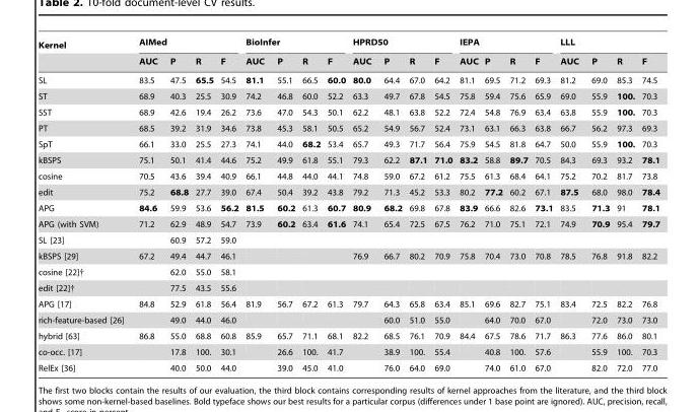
<table><thead><tr><td rowspan="2">Kernel</td><td colspan="4">AIMed</td><td colspan="4">BioInfer</td><td colspan="4">HPRD50</td><td colspan="4">IEPA</td><td colspan="4">LLL</td></tr><tr><td>AUC</td><td>P</td><td>R</td><td>F</td><td>AUC</td><td>P</td><td>R</td><td>F</td><td>AUC</td><td>P</td><td>R</td><td>F</td><td>AUC</td><td>P</td><td>R</td><td>F</td><td>AUC</td><td>P</td><td>R</td><td>F</td></tr></thead><tbody><tr><td>SL</td><td>83.5</td><td>47.5</td><td>65.5</td><td>54.5</td><td>81.1</td><td>55.1</td><td>66.5</td><td>60.0</td><td>80.0</td><td>64.4</td><td>67.0</td><td>64.2</td><td>81.1</td><td>69.5</td><td>71.2</td><td>69.3</td><td>81.2</td><td>69.0</td><td>85.3</td><td>74.5</td></tr><tr><td>ST</td><td>68.9</td><td>40.3</td><td>25.5</td><td>30.9</td><td>74.2</td><td>46.8</td><td>60.0</td><td>52.2</td><td>63.3</td><td>49.7</td><td>67.8</td><td>54.5</td><td>75.8</td><td>59.4</td><td>75.6</td><td>65.9</td><td>69.0</td><td>55.9</td><td>100.</td><td>70.3</td></tr><tr><td>SST</td><td>68.9</td><td>42.6</td><td>19.4</td><td>26.2</td><td>73.6</td><td>47.0</td><td>54.3</td><td>50.1</td><td>62.2</td><td>48.1</td><td>63.8</td><td>52.2</td><td>72.4</td><td>54.8</td><td>76.9</td><td>63.4</td><td>63.8</td><td>55.9</td><td>100.</td><td>70.3</td></tr><tr><td>PT</td><td>68.5</td><td>39.2</td><td>31.9</td><td>34.6</td><td>73.8</td><td>45.3</td><td>58.1</td><td>50.5</td><td>65.2</td><td>54.9</td><td>56.7</td><td>52.4</td><td>73.1</td><td>63.1</td><td>66.3</td><td>63.8</td><td>66.7</td><td>56.2</td><td>97.3</td><td>69.3</td></tr><tr><td>SpT</td><td>66.1</td><td>33.0</td><td>25.5</td><td>27.3</td><td>74.1</td><td>44.0</td><td>68.2</td><td>53.4</td><td>65.7</td><td>49.3</td><td>71.7</td><td>56.4</td><td>75.9</td><td>54.5</td><td>81.8</td><td>64.7</td><td>50.0</td><td>55.9</td><td>100.</td><td>70.3</td></tr><tr><td>kBSPS</td><td>75.1</td><td>50.1</td><td>41.4</td><td>44.6</td><td>75.2</td><td>49.9</td><td>61.8</td><td>55.1</td><td>79.3</td><td>62.2</td><td>87.1</td><td>71.0</td><td>83.2</td><td>58.8</td><td>89.7</td><td>70.5</td><td>84.3</td><td>69.3</td><td>93.2</td><td>78.1</td></tr><tr><td>cosine</td><td>70.5</td><td>43.6</td><td>39.4</td><td>40.9</td><td>66.1</td><td>44.8</td><td>44.0</td><td>44.1</td><td>74.8</td><td>59.0</td><td>67.2</td><td>61.2</td><td>75.5</td><td>61.3</td><td>68.4</td><td>64.1</td><td>75.2</td><td>70.2</td><td>81.7</td><td>73.8</td></tr><tr><td>edit</td><td>75.2</td><td>68.8</td><td>27.7</td><td>39.0</td><td>67.4</td><td>50.4</td><td>39.2</td><td>43.8</td><td>79.2</td><td>71.3</td><td>45.2</td><td>53.3</td><td>80.2</td><td>77.2</td><td>60.2</td><td>67.1</td><td>87.5</td><td>68.0</td><td>98.0</td><td>78.4</td></tr><tr><td>APG</td><td>84.6</td><td>59.9</td><td>53.6</td><td>56.2</td><td>81.5</td><td>60.2</td><td>61.3</td><td>60.7</td><td>80.9</td><td>68.2</td><td>69.8</td><td>67.8</td><td>83.9</td><td>66.6</td><td>82.6</td><td>73.1</td><td>83.5</td><td>71.3</td><td>91</td><td>78.1</td></tr><tr><td>APG (with SVM)</td><td>71.2</td><td>62.9</td><td>48.9</td><td>54.7</td><td>73.9</td><td>60.2</td><td>63.4</td><td>61.6</td><td>74.1</td><td>65.4</td><td>72.5</td><td>67.5</td><td>76.2</td><td>71.0</td><td>75.1</td><td>72.1</td><td>74.9</td><td>70.9</td><td>95.4</td><td>79.7</td></tr><tr><td>SL [23]</td><td></td><td>60.9</td><td>57.2</td><td>59.0</td><td></td><td></td><td></td><td></td><td></td><td></td><td></td><td></td><td></td><td></td><td></td><td></td><td></td><td></td><td></td><td></td></tr><tr><td>kBSPS [29]</td><td>67.2</td><td>49.4</td><td>44.7</td><td>46.1</td><td></td><td></td><td></td><td></td><td>76.9</td><td>66.7</td><td>80.2</td><td>70.9</td><td>75.8</td><td>70.4</td><td>73.0</td><td>70.8</td><td>78.5</td><td>76.8</td><td>91.8</td><td>82.2</td></tr><tr><td>cosine [22]†</td><td></td><td>62.0</td><td>55.0</td><td>58.1</td><td></td><td></td><td></td><td></td><td></td><td></td><td></td><td></td><td></td><td></td><td></td><td></td><td></td><td></td><td></td><td></td></tr><tr><td>edit [22]†</td><td></td><td>77.5</td><td>43.5</td><td>55.6</td><td></td><td></td><td></td><td></td><td></td><td></td><td></td><td></td><td></td><td></td><td></td><td></td><td></td><td></td><td></td><td></td></tr><tr><td>APG [17]</td><td>84.8</td><td>52.9</td><td>61.8</td><td>56.4</td><td>81.9</td><td>56.7</td><td>67.2</td><td>61.3</td><td>79.7</td><td>64.3</td><td>65.8</td><td>63.4</td><td>85.1</td><td>69.6</td><td>82.7</td><td>75.1</td><td>83.4</td><td>72.5</td><td>82.2</td><td>76.8</td></tr><tr><td>rich-feature-based [26]</td><td></td><td>49.0</td><td>44.0</td><td>46.0</td><td></td><td></td><td></td><td></td><td></td><td>60.0</td><td>51.0</td><td>55.0</td><td></td><td>64.0</td><td>70.0</td><td>67.0</td><td></td><td>72.0</td><td>73.0</td><td>73.0</td></tr><tr><td>hybrid [63]</td><td>86.8</td><td>55.0</td><td>68.8</td><td>60.8</td><td>85.9</td><td>65.7</td><td>71.1</td><td>68.1</td><td>82.2</td><td>68.5</td><td>76.1</td><td>70.9</td><td>84.4</td><td>67.5</td><td>78.6</td><td>71.7</td><td>86.3</td><td>77.6</td><td>86.0</td><td>80.1</td></tr><tr><td>co-occ. [17]</td><td></td><td>17.8</td><td>100.</td><td>30.1</td><td></td><td>26.6</td><td>100.</td><td>41.7</td><td></td><td>38.9</td><td>100.</td><td>55.4</td><td></td><td>40.8</td><td>100.</td><td>57.6</td><td></td><td>55.9</td><td>100.</td><td>70.3</td></tr><tr><td>RelEx [36]</td><td></td><td>40.0</td><td>50.0</td><td>44.0</td><td></td><td>39.0</td><td>45.0</td><td>41.0</td><td></td><td>76.0</td><td>64.0</td><td>69.0</td><td></td><td>74.0</td><td>61.0</td><td>67.0</td><td></td><td>82.0</td><td>72.0</td><td>77.0</td></tr></tbody></table>